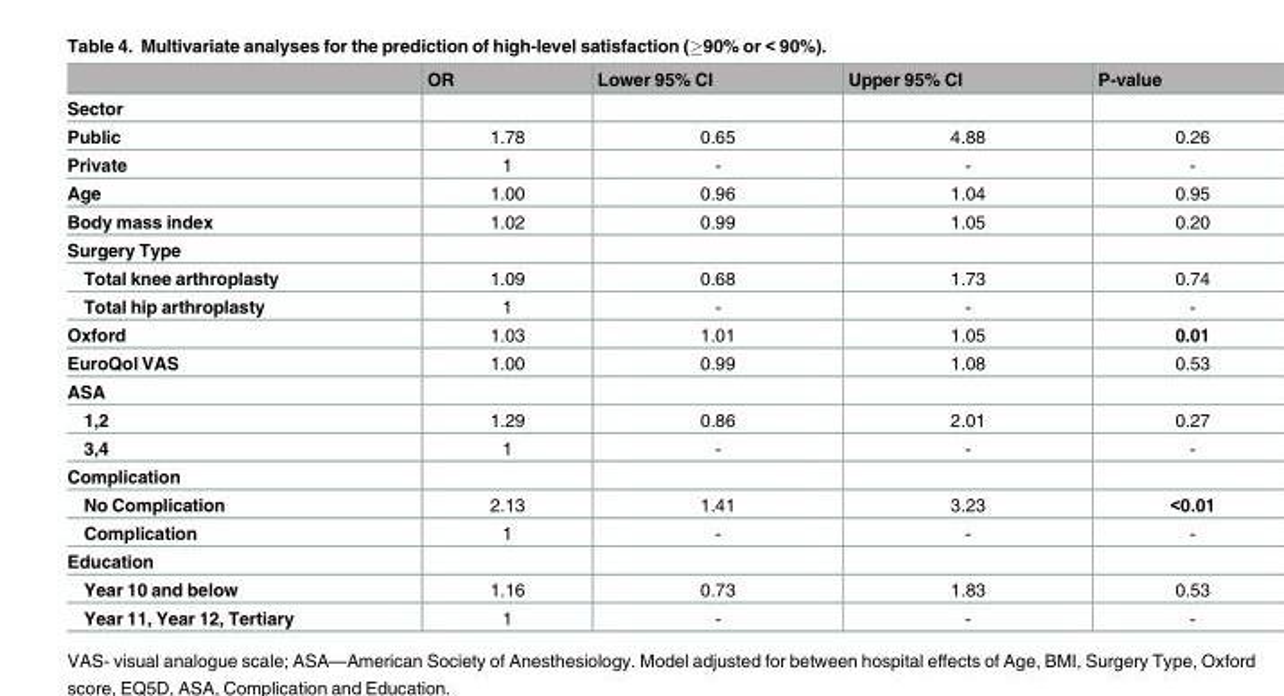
<table><thead><tr><td></td><td>OR</td><td>Lower 95% CI</td><td>Upper 95% CI</td><td>P-value</td></tr></thead><tbody><tr><td colspan="5">Sector</td></tr><tr><td>Public</td><td>1.78</td><td>0.65</td><td>4.88</td><td>0.26</td></tr><tr><td>Private</td><td>1</td><td>-</td><td>-</td><td>-</td></tr><tr><td>Age</td><td>1.00</td><td>0.96</td><td>1.04</td><td>0.95</td></tr><tr><td>Body mass index</td><td>1.02</td><td>0.99</td><td>1.05</td><td>0.20</td></tr><tr><td colspan="5">Surgery Type</td></tr><tr><td>Total knee arthroplasty</td><td>1.09</td><td>0.68</td><td>1.73</td><td>0.74</td></tr><tr><td>Total hip arthroplasty</td><td>1</td><td>-</td><td>-</td><td>-</td></tr><tr><td>Oxford</td><td>1.03</td><td>1.01</td><td>1.05</td><td>0.01</td></tr><tr><td>EuroQol VAS</td><td>1.00</td><td>0.99</td><td>1.08</td><td>0.53</td></tr><tr><td colspan="5">ASA</td></tr><tr><td>1,2</td><td>1.29</td><td>0.86</td><td>2.01</td><td>0.27</td></tr><tr><td>3,4</td><td>1</td><td>-</td><td>-</td><td>-</td></tr><tr><td colspan="5">Complication</td></tr><tr><td>No Complication</td><td>2.13</td><td>1.41</td><td>3.23</td><td>&lt;0.01</td></tr><tr><td>Complication</td><td>1</td><td>-</td><td>-</td><td>-</td></tr><tr><td colspan="5">Education</td></tr><tr><td>Year 10 and below</td><td>1.16</td><td>0.73</td><td>1.83</td><td>0.53</td></tr><tr><td>Year 11, Year 12, Tertiary</td><td>1</td><td>-</td><td>-</td><td>-</td></tr></tbody></table>